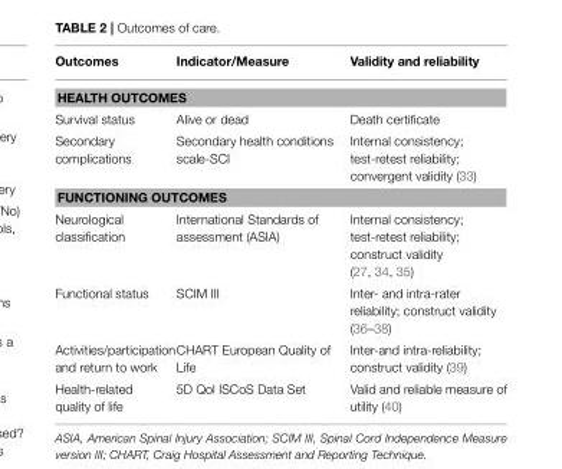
<table><thead><tr><td>Outcomes</td><td>Indicator/Measure</td><td>Validity and reliability</td></tr></thead><tbody><tr><td colspan="3">HEALTH OUTCOMES</td></tr><tr><td>Survival status</td><td>Alive or dead</td><td>Death certificate</td></tr><tr><td>Secondary complications</td><td>Secondary health conditions scale-SCI</td><td>Internal consistency; test-retest reliability; convergent validity (33)</td></tr><tr><td colspan="3">FUNCTIONING OUTCOMES</td></tr><tr><td>Neurological classification</td><td>International Standards of assessment (ASIA)</td><td>Internal consistency; test-retest reliability; construct validity (27, 34, 35)</td></tr><tr><td>Functional status</td><td>SCIM III</td><td>Inter- and intra-rater reliability; construct validity (36–38)</td></tr><tr><td>Activities/participation and return to work</td><td>CHART European Quality of Life</td><td>Inter-and intra-reliability; construct validity (39)</td></tr><tr><td>Health-related quality of life</td><td>5D Qol ISCoS Data Set</td><td>Valid and reliable measure of utility (40)</td></tr></tbody></table>